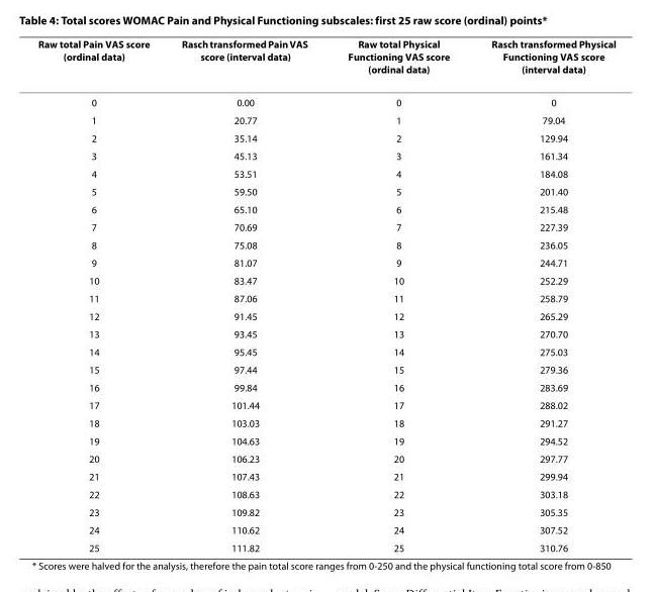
<table><thead><tr><td>Raw total Pain VAS score (ordinal data)</td><td>Rasch transformed Pain VAS score (interval data)</td><td>Raw total Physical Functioning VAS score (ordinal data)</td><td>Rasch transformed Physical Functioning VAS score (interval data)</td></tr></thead><tbody><tr><td>0</td><td>0.00</td><td>0</td><td>0</td></tr><tr><td>1</td><td>20.77</td><td>1</td><td>79.04</td></tr><tr><td>2</td><td>35.14</td><td>2</td><td>129.94</td></tr><tr><td>3</td><td>45.13</td><td>3</td><td>161.34</td></tr><tr><td>4</td><td>53.51</td><td>4</td><td>184.08</td></tr><tr><td>5</td><td>59.50</td><td>5</td><td>201.40</td></tr><tr><td>6</td><td>65.10</td><td>6</td><td>215.48</td></tr><tr><td>7</td><td>70.69</td><td>7</td><td>227.39</td></tr><tr><td>8</td><td>75.08</td><td>8</td><td>236.05</td></tr><tr><td>9</td><td>81.07</td><td>9</td><td>244.71</td></tr><tr><td>10</td><td>83.47</td><td>10</td><td>252.29</td></tr><tr><td>11</td><td>87.06</td><td>11</td><td>258.79</td></tr><tr><td>12</td><td>91.45</td><td>12</td><td>265.29</td></tr><tr><td>13</td><td>93.45</td><td>13</td><td>270.70</td></tr><tr><td>14</td><td>95.45</td><td>14</td><td>275.03</td></tr><tr><td>15</td><td>97.44</td><td>15</td><td>279.36</td></tr><tr><td>16</td><td>99.84</td><td>16</td><td>283.69</td></tr><tr><td>17</td><td>101.44</td><td>17</td><td>288.02</td></tr><tr><td>18</td><td>103.03</td><td>18</td><td>291.27</td></tr><tr><td>19</td><td>104.63</td><td>19</td><td>294.52</td></tr><tr><td>20</td><td>106.23</td><td>20</td><td>297.77</td></tr><tr><td>21</td><td>107.43</td><td>21</td><td>299.94</td></tr><tr><td>22</td><td>108.63</td><td>22</td><td>303.18</td></tr><tr><td>23</td><td>109.82</td><td>23</td><td>305.35</td></tr><tr><td>24</td><td>110.62</td><td>24</td><td>307.52</td></tr><tr><td>25</td><td>111.82</td><td>25</td><td>310.76</td></tr></tbody></table>